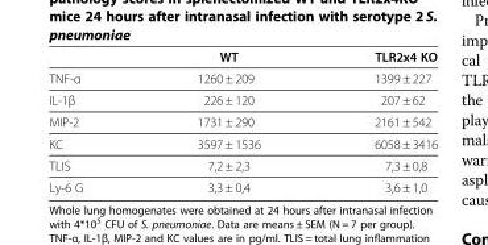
<table><thead><tr><td></td><td>WT</td><td>TLR2x4 KO</td></tr></thead><tbody><tr><td>TNF-α</td><td>1260 ± 209</td><td>1399 ± 227</td></tr><tr><td>IL-1β</td><td>226 ± 120</td><td>207 ± 62</td></tr><tr><td>MIP-2</td><td>1731 ± 290</td><td>2161 ± 542</td></tr><tr><td>KC</td><td>3597 ± 1536</td><td>6058 ± 3416</td></tr><tr><td>TLIS</td><td>7,2 ± 2,3</td><td>7,3 ± 0,8</td></tr><tr><td>Ly-6 G</td><td>3,3 ± 0,4</td><td>3,6 ± 1,0</td></tr></tbody></table>